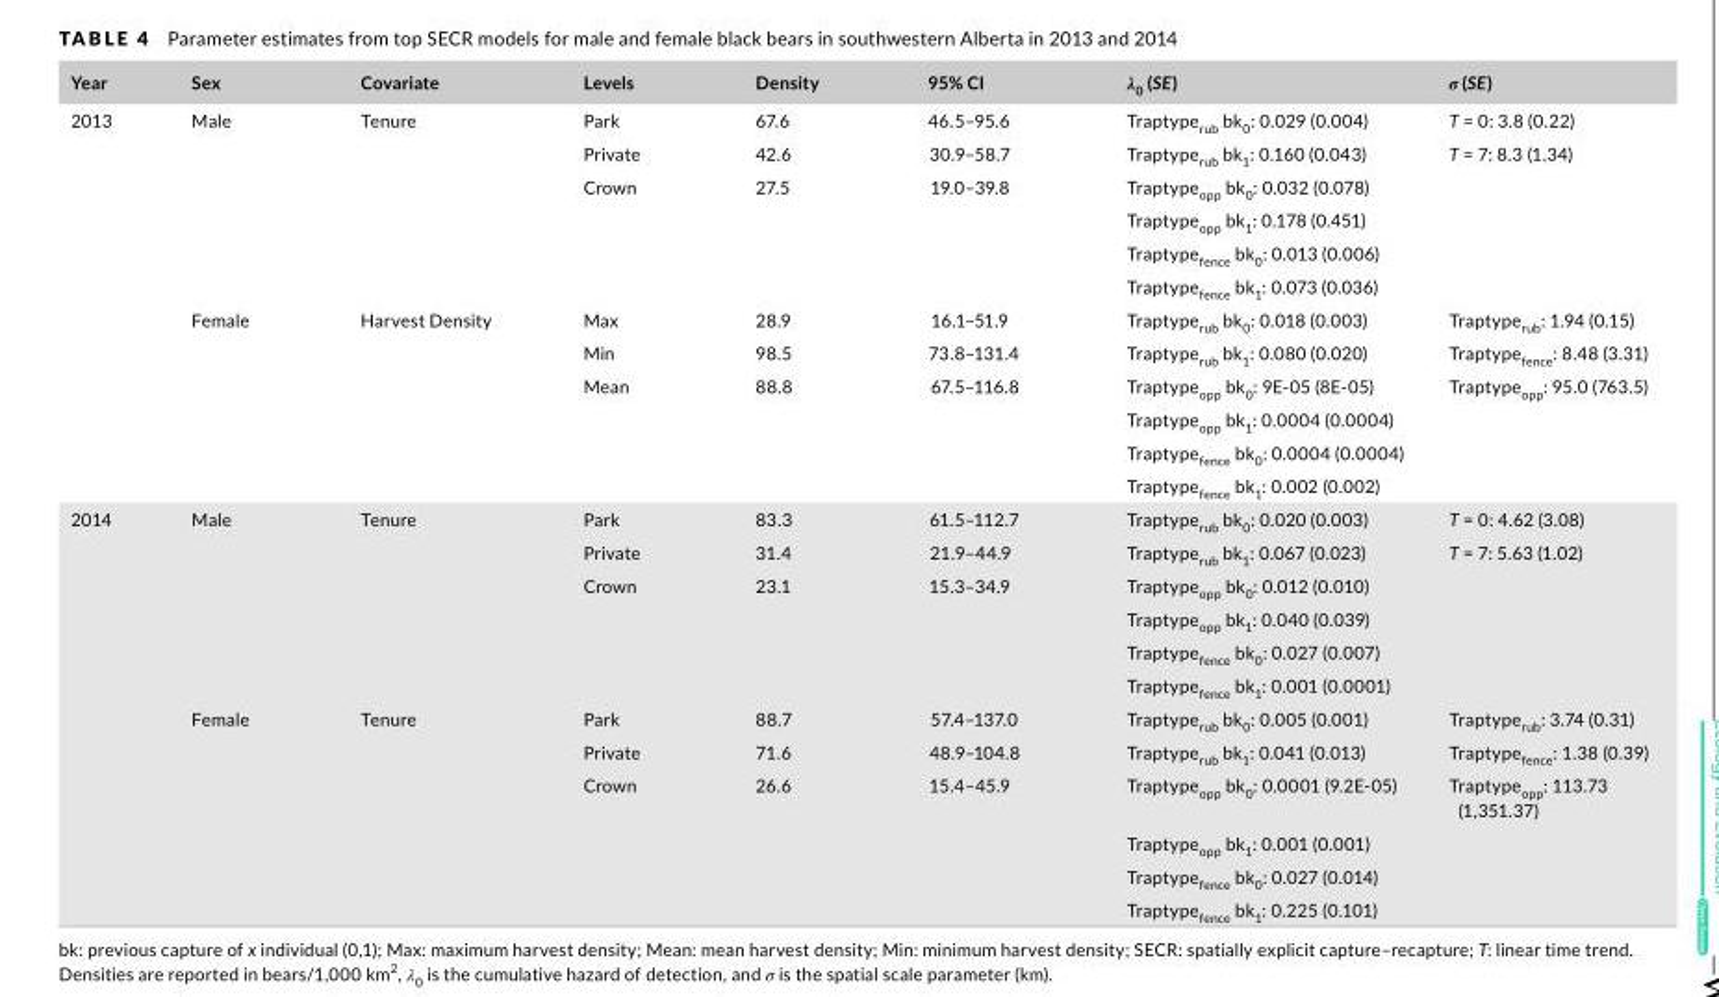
<table><thead><tr><td>Year</td><td>Sex</td><td>Covariate</td><td>Levels</td><td>Density</td><td>95% CI</td><td>λ<sub>0</sub> (SE)</td><td>σ (SE)</td></tr></thead><tbody><tr><td rowspan="12">2013</td><td rowspan="6">Male</td><td rowspan="6">Tenure</td><td>Park</td><td>67.6</td><td>46.5–95.6</td><td>Traptype<sub>rub</sub> bk<sub>0</sub>: 0.029 (0.004)</td><td>T = 0: 3.8 (0.22)</td></tr><tr><td>Private</td><td>42.6</td><td>30.9–58.7</td><td>Traptype<sub>rub</sub> bk<sub>1</sub>: 0.160 (0.043)</td><td>T = 7: 8.3 (1.34)</td></tr><tr><td>Crown</td><td>27.5</td><td>19.0–39.8</td><td>Traptype<sub>opp</sub> bk<sub>0</sub>: 0.032 (0.078)</td><td></td></tr><tr><td></td><td></td><td></td><td>Traptype<sub>opp</sub> bk<sub>1</sub>: 0.178 (0.451)</td><td></td></tr><tr><td></td><td></td><td></td><td>Traptype<sub>fence</sub> bk<sub>0</sub>: 0.013 (0.006)</td><td></td></tr><tr><td></td><td></td><td></td><td>Traptype<sub>fence</sub> bk<sub>1</sub>: 0.073 (0.036)</td><td></td></tr><tr><td rowspan="6">Female</td><td rowspan="6">Harvest Density</td><td>Max</td><td>28.9</td><td>16.1–51.9</td><td>Traptype<sub>rub</sub> bk<sub>0</sub>: 0.018 (0.003)</td><td>Traptype<sub>rub</sub>: 1.94 (0.15)</td></tr><tr><td>Min</td><td>98.5</td><td>73.8–131.4</td><td>Traptype<sub>rub</sub> bk<sub>1</sub>: 0.080 (0.020)</td><td>Traptype<sub>fence</sub>: 8.48 (3.31)</td></tr><tr><td>Mean</td><td>88.8</td><td>67.5–116.8</td><td>Traptype<sub>opp</sub> bk<sub>0</sub>: 9E‐05 (8E‐05)</td><td>Traptype<sub>opp</sub>: 95.0 (763.5)</td></tr><tr><td></td><td></td><td></td><td>Traptype<sub>opp</sub> bk<sub>1</sub>: 0.0004 (0.0004)</td><td></td></tr><tr><td></td><td></td><td></td><td>Traptype<sub>fence</sub> bk<sub>0</sub>: 0.0004 (0.0004)</td><td></td></tr><tr><td></td><td></td><td></td><td>Traptype<sub>fence</sub> bk<sub>1</sub>: 0.002 (0.002)</td><td></td></tr><tr><td rowspan="12">2014</td><td rowspan="6">Male</td><td rowspan="6">Tenure</td><td>Park</td><td>83.3</td><td>61.5–112.7</td><td>Traptype<sub>rub</sub> bk<sub>0</sub>: 0.020 (0.003)</td><td>T = 0: 4.62 (3.08)</td></tr><tr><td>Private</td><td>31.4</td><td>21.9–44.9</td><td>Traptype<sub>rub</sub> bk<sub>1</sub>: 0.067 (0.023)</td><td>T = 7: 5.63 (1.02)</td></tr><tr><td>Crown</td><td>23.1</td><td>15.3–34.9</td><td>Traptype<sub>opp</sub> bk<sub>0</sub>: 0.012 (0.010)</td><td></td></tr><tr><td></td><td></td><td></td><td>Traptype<sub>opp</sub> bk<sub>1</sub>: 0.040 (0.039)</td><td></td></tr><tr><td></td><td></td><td></td><td>Traptype<sub>fence</sub> bk<sub>0</sub>: 0.027 (0.007)</td><td></td></tr><tr><td></td><td></td><td></td><td>Traptype<sub>fence</sub> bk<sub>1</sub>: 0.001 (0.0001)</td><td></td></tr><tr><td rowspan="6">Female</td><td rowspan="6">Tenure</td><td>Park</td><td>88.7</td><td>57.4–137.0</td><td>Traptype<sub>rub</sub> bk<sub>0</sub>: 0.005 (0.001)</td><td>Traptype<sub>rub</sub>: 3.74 (0.31)</td></tr><tr><td>Private</td><td>71.6</td><td>48.9–104.8</td><td>Traptype<sub>rub</sub> bk<sub>1</sub>: 0.041 (0.013)</td><td>Traptype<sub>fence</sub>: 1.38 (0.39)</td></tr><tr><td>Crown</td><td>26.6</td><td>15.4–45.9</td><td>Traptype<sub>opp</sub> bk<sub>0</sub>: 0.0001 (9.2E‐05)</td><td>Traptype<sub>opp</sub>: 113.73 (1,351.37)</td></tr><tr><td></td><td></td><td></td><td>Traptype<sub>opp</sub> bk<sub>1</sub>: 0.001 (0.001)</td><td></td></tr><tr><td></td><td></td><td></td><td>Traptype<sub>fence</sub> bk<sub>0</sub>: 0.027 (0.014)</td><td></td></tr><tr><td></td><td></td><td></td><td>Traptype<sub>fence</sub> bk<sub>1</sub>: 0.225 (0.101)</td><td></td></tr></tbody></table>